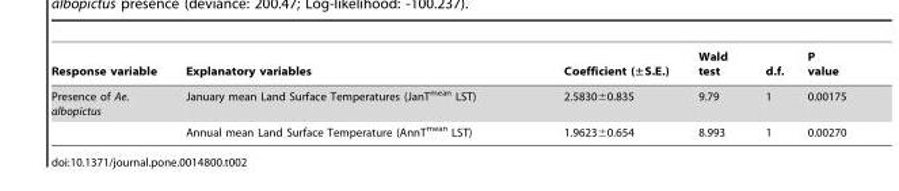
<table><thead><tr><td>Response variable</td><td>Explanatory variables</td><td>Coefficient (±S.E.)</td><td>Wald test</td><td>d.f.</td><td>P value</td></tr></thead><tbody><tr><td rowspan="2">Presence of Ae. albopictus</td><td>January mean Land Surface Temperatures (JanT<sup>mean</sup> LST)</td><td>2.5830±0.835</td><td>9.79</td><td>1</td><td>0.00175</td></tr><tr><td>Annual mean Land Surface Temperature (AnnT<sup>mean</sup> LST)</td><td>1.9623±0.654</td><td>8.993</td><td>1</td><td>0.00270</td></tr></tbody></table>